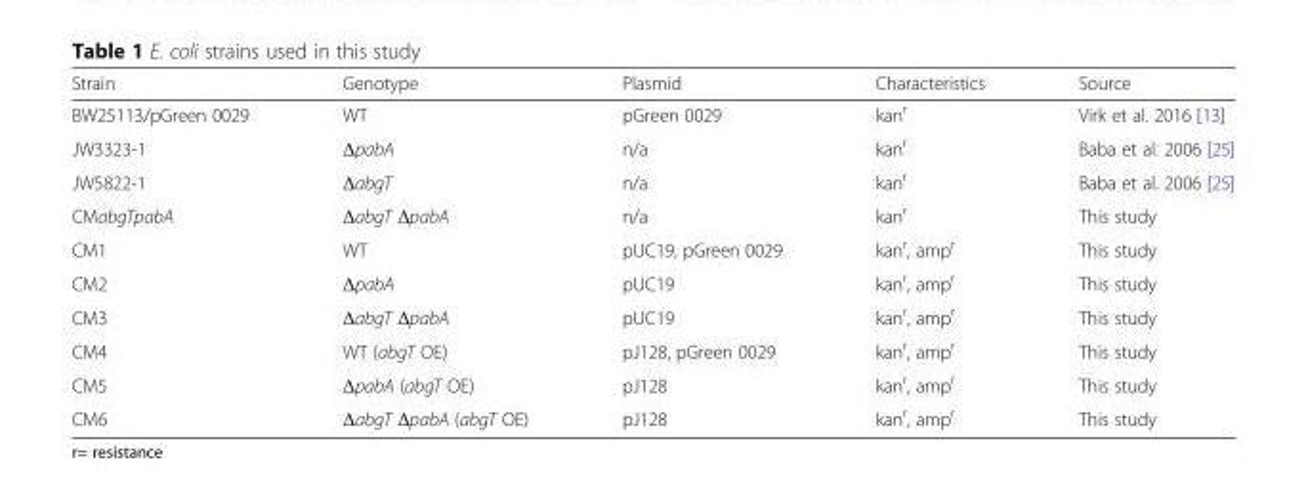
<table><thead><tr><td>Strain</td><td>Genotype</td><td>Plasmid</td><td>Characteristics</td><td>Source</td></tr></thead><tbody><tr><td>BW25113/pGreen 0029</td><td>WT</td><td>pGreen 0029</td><td>kan<sup>r</sup></td><td>Virk et al. 2016 [13]</td></tr><tr><td>JW3323-1</td><td>ΔpabA</td><td>n/a</td><td>kan<sup>r</sup></td><td>Baba et al. 2006 [25]</td></tr><tr><td>JW5822-1</td><td>ΔabgT</td><td>n/a</td><td>kan<sup>r</sup></td><td>Baba et al. 2006 [25]</td></tr><tr><td>CMabgTpabA</td><td>ΔabgT ΔpabA</td><td>n/a</td><td>kan<sup>r</sup></td><td>This study</td></tr><tr><td>CM1</td><td>WT</td><td>pUC19, pGreen 0029</td><td>kan<sup>r</sup>, amp<sup>r</sup></td><td>This study</td></tr><tr><td>CM2</td><td>ΔpabA</td><td>pUC19</td><td>kan<sup>r</sup>, amp<sup>r</sup></td><td>This study</td></tr><tr><td>CM3</td><td>ΔabgT ΔpabA</td><td>pUC19</td><td>kan<sup>r</sup>, amp<sup>r</sup></td><td>This study</td></tr><tr><td>CM4</td><td>WT (abgT OE)</td><td>pJ128, pGreen 0029</td><td>kan<sup>r</sup>, amp<sup>r</sup></td><td>This study</td></tr><tr><td>CM5</td><td>ΔpabA (abgT OE)</td><td>pJ128</td><td>kan<sup>r</sup>, amp<sup>r</sup></td><td>This study</td></tr><tr><td>CM6</td><td>ΔabgT ΔpabA (abgT OE)</td><td>pJ128</td><td>kan<sup>r</sup>, amp<sup>r</sup></td><td>This study</td></tr></tbody></table>